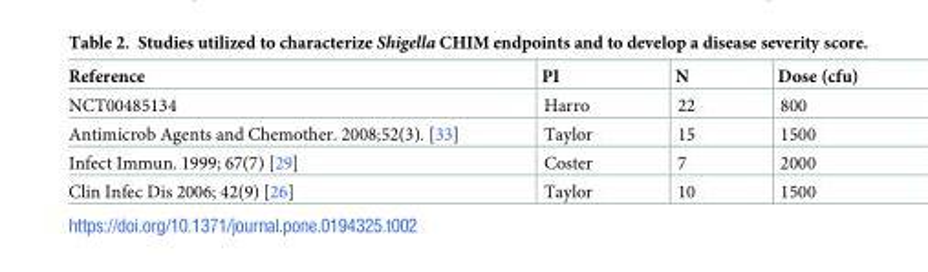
<table><thead><tr><td>Reference</td><td>PI</td><td>N</td><td>Dose (cfu)</td></tr></thead><tbody><tr><td>NCT00485134</td><td>Harro</td><td>22</td><td>800</td></tr><tr><td>Antimicrob Agents and Chemother. 2008;52(3). [33]</td><td>Taylor</td><td>15</td><td>1500</td></tr><tr><td>Infect Immun. 1999; 67(7) [29]</td><td>Coster</td><td>7</td><td>2000</td></tr><tr><td>Clin Infec Dis 2006; 42(9) [26]</td><td>Taylor</td><td>10</td><td>1500</td></tr></tbody></table>